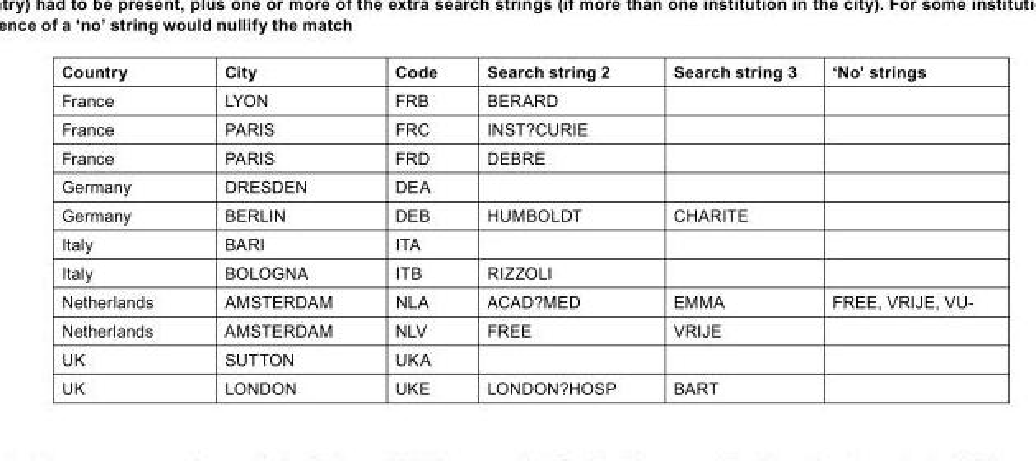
<table><thead><tr><td>Country</td><td>City</td><td>Code</td><td>Search string 2</td><td>Search string 3</td><td>‘No’ strings</td></tr></thead><tbody><tr><td>France</td><td>LYON</td><td>FRB</td><td>BERARD</td><td></td><td></td></tr><tr><td>France</td><td>PARIS</td><td>FRC</td><td>INST?CURIE</td><td></td><td></td></tr><tr><td>France</td><td>PARIS</td><td>FRD</td><td>DEBRE</td><td></td><td></td></tr><tr><td>Germany</td><td>DRESDEN</td><td>DEA</td><td></td><td></td><td></td></tr><tr><td>Germany</td><td>BERLIN</td><td>DEB</td><td>HUMBOLDT</td><td>CHARITE</td><td></td></tr><tr><td>Italy</td><td>BARI</td><td>ITA</td><td></td><td></td><td></td></tr><tr><td>Italy</td><td>BOLOGNA</td><td>ITB</td><td>RIZZOLI</td><td></td><td></td></tr><tr><td>Netherlands</td><td>AMSTERDAM</td><td>NLA</td><td>ACAD?MED</td><td>EMMA</td><td>FREE, VRIJE, VU-</td></tr><tr><td>Netherlands</td><td>AMSTERDAM</td><td>NLV</td><td>FREE</td><td>VRIJE</td><td></td></tr><tr><td>UK</td><td>SUTTON</td><td>UKA</td><td></td><td></td><td></td></tr><tr><td>UK</td><td>LONDON</td><td>UKE</td><td>LONDON?HOSP</td><td>BART</td><td></td></tr></tbody></table>